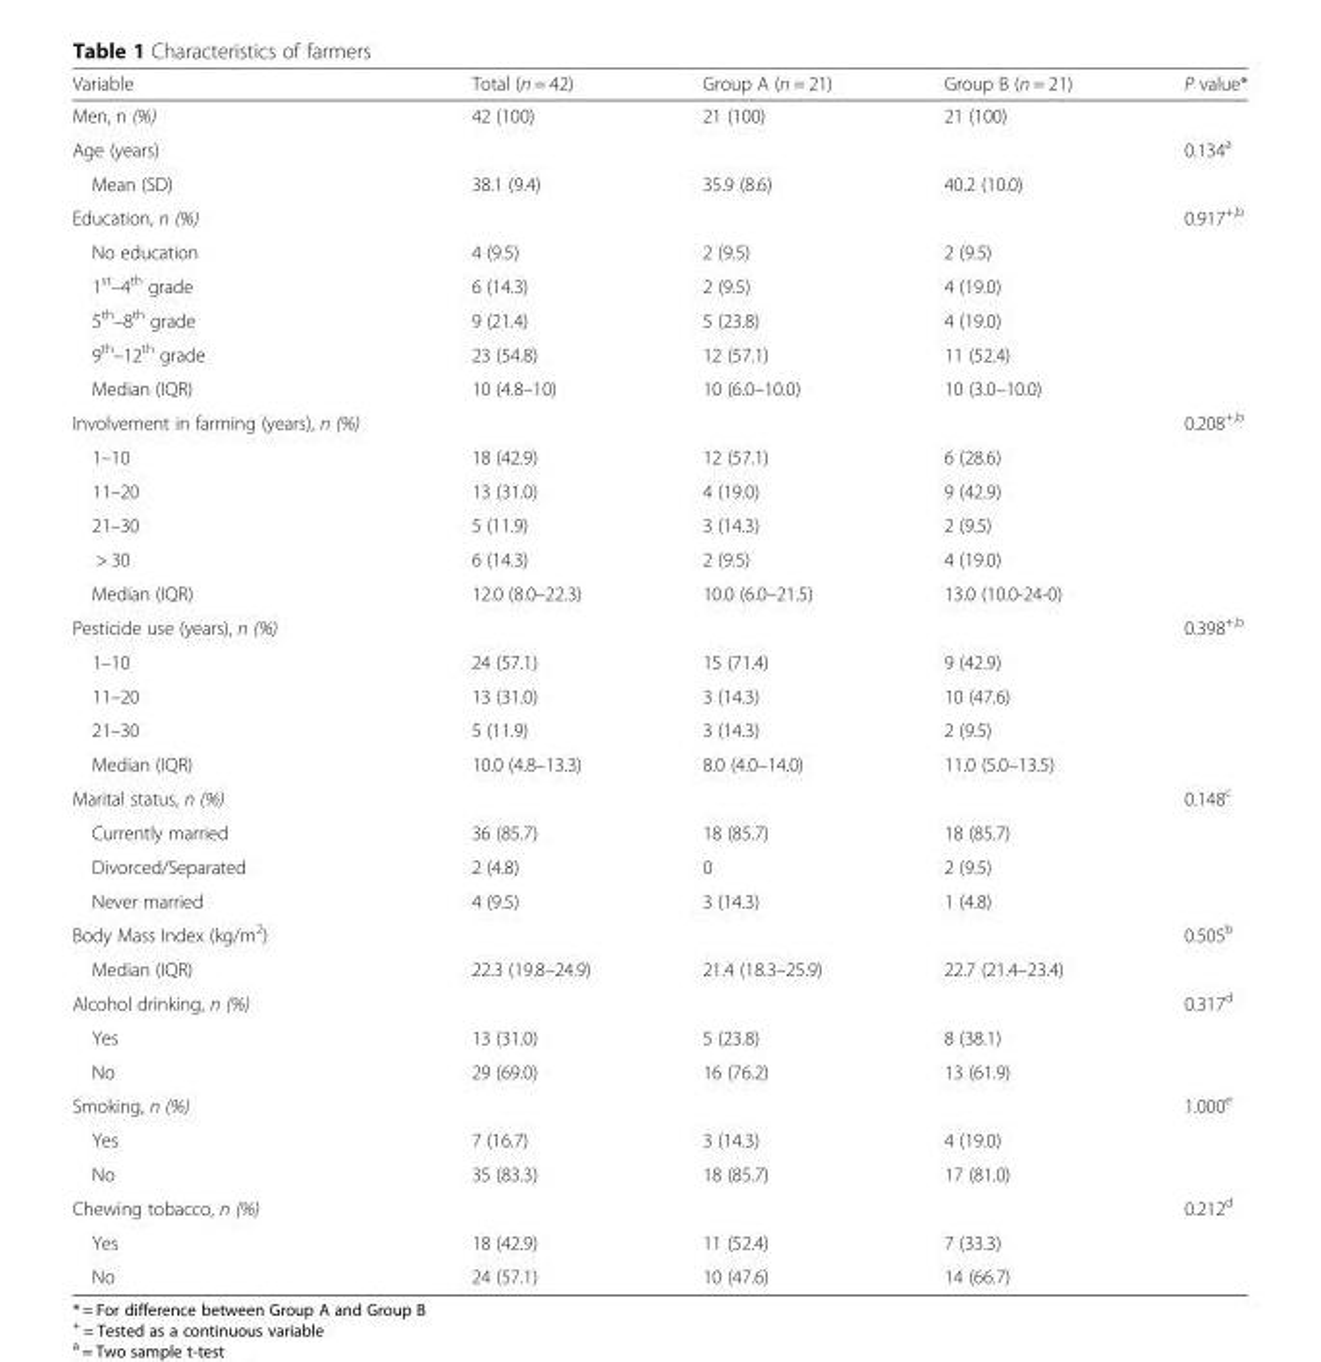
<table><thead><tr><td>Variable</td><td>Total (n = 42)</td><td>Group A (n = 21)</td><td>Group B (n = 21)</td><td>P value*</td></tr></thead><tbody><tr><td>Men, n (%)</td><td>42 (100)</td><td>21 (100)</td><td>21 (100)</td><td></td></tr><tr><td>Age (years)</td><td></td><td></td><td></td><td>0.134<sup>a</sup></td></tr><tr><td>Mean (SD)</td><td>38.1 (9.4)</td><td>35.9 (8.6)</td><td>40.2 (10.0)</td><td></td></tr><tr><td>Education, n (%)</td><td></td><td></td><td></td><td>0.917<sup>+,b</sup></td></tr><tr><td>No education</td><td>4 (9.5)</td><td>2 (9.5)</td><td>2 (9.5)</td><td></td></tr><tr><td>1<sup>st</sup>–4<sup>th</sup> grade</td><td>6 (14.3)</td><td>2 (9.5)</td><td>4 (19.0)</td><td></td></tr><tr><td>5<sup>th</sup>–8<sup>th</sup> grade</td><td>9 (21.4)</td><td>5 (23.8)</td><td>4 (19.0)</td><td></td></tr><tr><td>9<sup>th</sup>–12<sup>th</sup> grade</td><td>23 (54.8)</td><td>12 (57.1)</td><td>11 (52.4)</td><td></td></tr><tr><td>Median (IQR)</td><td>10 (4.8–10)</td><td>10 (6.0–10.0)</td><td>10 (3.0–10.0)</td><td></td></tr><tr><td>Involvement in farming (years), n (%)</td><td></td><td></td><td></td><td>0.208<sup>+,b</sup></td></tr><tr><td>1–10</td><td>18 (42.9)</td><td>12 (57.1)</td><td>6 (28.6)</td><td></td></tr><tr><td>11–20</td><td>13 (31.0)</td><td>4 (19.0)</td><td>9 (42.9)</td><td></td></tr><tr><td>21–30</td><td>5 (11.9)</td><td>3 (14.3)</td><td>2 (9.5)</td><td></td></tr><tr><td>&gt; 30</td><td>6 (14.3)</td><td>2 (9.5)</td><td>4 (19.0)</td><td></td></tr><tr><td>Median (IQR)</td><td>12.0 (8.0–22.3)</td><td>10.0 (6.0–21.5)</td><td>13.0 (10.0-24-0)</td><td></td></tr><tr><td>Pesticide use (years), n (%)</td><td></td><td></td><td></td><td>0.398<sup>+,b</sup></td></tr><tr><td>1–10</td><td>24 (57.1)</td><td>15 (71.4)</td><td>9 (42.9)</td><td></td></tr><tr><td>11–20</td><td>13 (31.0)</td><td>3 (14.3)</td><td>10 (47.6)</td><td></td></tr><tr><td>21–30</td><td>5 (11.9)</td><td>3 (14.3)</td><td>2 (9.5)</td><td></td></tr><tr><td>Median (IQR)</td><td>10.0 (4.8–13.3)</td><td>8.0 (4.0–14.0)</td><td>11.0 (5.0–13.5)</td><td></td></tr><tr><td>Marital status, n (%)</td><td></td><td></td><td></td><td>0.148<sup>c</sup></td></tr><tr><td>Currently married</td><td>36 (85.7)</td><td>18 (85.7)</td><td>18 (85.7)</td><td></td></tr><tr><td>Divorced/Separated</td><td>2 (4.8)</td><td>0</td><td>2 (9.5)</td><td></td></tr><tr><td>Never married</td><td>4 (9.5)</td><td>3 (14.3)</td><td>1 (4.8)</td><td></td></tr><tr><td>Body Mass Index (kg/m<sup>2</sup>)</td><td></td><td></td><td></td><td>0.505<sup>b</sup></td></tr><tr><td>Median (IQR)</td><td>22.3 (19.8–24.9)</td><td>21.4 (18.3–25.9)</td><td>22.7 (21.4–23.4)</td><td></td></tr><tr><td>Alcohol drinking, n (%)</td><td></td><td></td><td></td><td>0.317<sup>d</sup></td></tr><tr><td>Yes</td><td>13 (31.0)</td><td>5 (23.8)</td><td>8 (38.1)</td><td></td></tr><tr><td>No</td><td>29 (69.0)</td><td>16 (76.2)</td><td>13 (61.9)</td><td></td></tr><tr><td>Smoking, n (%)</td><td></td><td></td><td></td><td>1.000<sup>e</sup></td></tr><tr><td>Yes</td><td>7 (16.7)</td><td>3 (14.3)</td><td>4 (19.0)</td><td></td></tr><tr><td>No</td><td>35 (83.3)</td><td>18 (85.7)</td><td>17 (81.0)</td><td></td></tr><tr><td>Chewing tobacco, n (%)</td><td></td><td></td><td></td><td>0.212<sup>d</sup></td></tr><tr><td>Yes</td><td>18 (42.9)</td><td>11 (52.4)</td><td>7 (33.3)</td><td></td></tr><tr><td>No</td><td>24 (57.1)</td><td>10 (47.6)</td><td>14 (66.7)</td><td></td></tr></tbody></table>